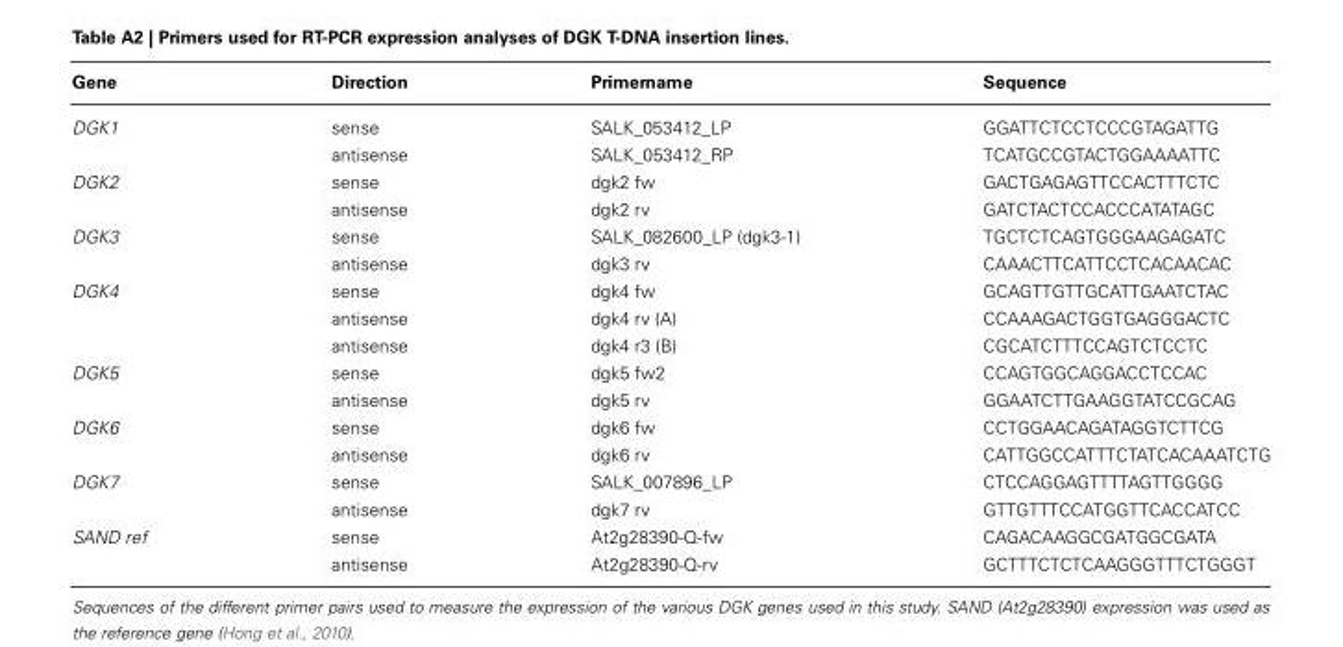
<table><thead><tr><td>Gene</td><td>Direction</td><td>Primername</td><td>Sequence</td></tr></thead><tbody><tr><td rowspan="2">DGK1</td><td>sense</td><td>SALK_053412_LP</td><td>GGATTCTCCTCCCGTAGATTG</td></tr><tr><td>antisense</td><td>SALK_053412_RP</td><td>TCATGCCGTACTGGAAAATTC</td></tr><tr><td rowspan="2">DGK2</td><td>sense</td><td>dgk2 fw</td><td>GACTGAGAGTTCCACTTTCTC</td></tr><tr><td>antisense</td><td>dgk2 rv</td><td>GATCTACTCCACCCATATAGC</td></tr><tr><td rowspan="2">DGK3</td><td>sense</td><td>SALK_082600_LP (dgk3-1)</td><td>TGCTCTCAGTGGGAAGAGATC</td></tr><tr><td>antisense</td><td>dgk3 rv</td><td>CAAACTTCATTCCTCACAACAC</td></tr><tr><td rowspan="3">DGK4</td><td>sense</td><td>dgk4 fw</td><td>GCAGTTGTTGCATTGAATCTAC</td></tr><tr><td>antisense</td><td>dgk4 rv (A)</td><td>CCAAAGACTGGTGAGGGACTC</td></tr><tr><td>antisense</td><td>dgk4 r3 (B)</td><td>CGCATCTTTCCAGTCTCCTC</td></tr><tr><td rowspan="2">DGK5</td><td>sense</td><td>dgk5 fw2</td><td>CCAGTGGCAGGACCTCCAC</td></tr><tr><td>antisense</td><td>dgk5 rv</td><td>GGAATCTTGAAGGTATCCGCAG</td></tr><tr><td rowspan="2">DGK6</td><td>sense</td><td>dgk6 fw</td><td>CCTGGAACAGATAGGTCTTCG</td></tr><tr><td>antisense</td><td>dgk6 rv</td><td>CATTGGCCATTTCTATCACAAATCTG</td></tr><tr><td rowspan="2">DGK7</td><td>sense</td><td>SALK_007896_LP</td><td>CTCCAGGAGTTTTAGTTGGGG</td></tr><tr><td>antisense</td><td>dgk7 rv</td><td>GTTGTTTCCATGGTTCACCATCC</td></tr><tr><td rowspan="2">SAND ref</td><td>sense</td><td>At2g28390-Q-fw</td><td>CAGACAAGGCGATGGCGATA</td></tr><tr><td>antisense</td><td>At2g28390-Q-rv</td><td>GCTTTCTCTCAAGGGTTTCTGGGT</td></tr></tbody></table>